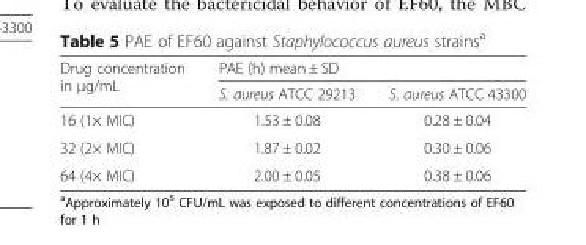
<table><thead><tr><td rowspan="2">Drug concentration in μg/mL</td><td colspan="2">PAE (h) mean ± SD</td></tr><tr><td>S. aureus ATCC 29213</td><td>S. aureus ATCC 43300</td></tr></thead><tbody><tr><td>16 (1× MIC)</td><td>1.53 ± 0.08</td><td>0.28 ± 0.04</td></tr><tr><td>32 (2× MIC)</td><td>1.87 ± 0.02</td><td>0.30 ± 0.06</td></tr><tr><td>64 (4× MIC)</td><td>2.00 ± 0.05</td><td>0.38 ± 0.06</td></tr></tbody></table>